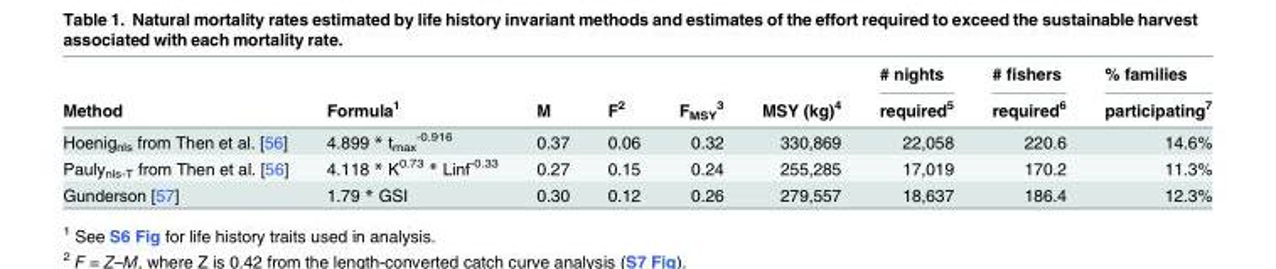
<table><thead><tr><td rowspan="2">Method</td><td rowspan="2">Formula<sup>1</sup></td><td rowspan="2">M</td><td rowspan="2">F<sup>2</sup></td><td rowspan="2">F<sub>MSY</sub> <sup>3</sup></td><td rowspan="2">MSY (kg)<sup>4</sup></td><td rowspan="2"># nights required<sup>5</sup></td><td rowspan="2"># fishers required<sup>6</sup></td><td rowspan="2">% families participating<sup>7</sup></td></tr><tr></tr></thead><tbody><tr><td>Hoenig<sub>nls</sub> from Then et al. [56]</td><td>4.899 * t<sub>max</sub> <sup>-0.916</sup></td><td>0.37</td><td>0.06</td><td>0.32</td><td>330,869</td><td>22,058</td><td>220.6</td><td>14.6%</td></tr><tr><td>Pauly<sub>nls-T</sub> from Then et al. [56]</td><td>4.118 * K<sup>0.73</sup> * Linf<sup>-0.33</sup></td><td>0.27</td><td>0.15</td><td>0.24</td><td>255,285</td><td>17,019</td><td>170.2</td><td>11.3%</td></tr><tr><td>Gunderson [57]</td><td>1.79 * GSI</td><td>0.30</td><td>0.12</td><td>0.26</td><td>279,557</td><td>18,637</td><td>186.4</td><td>12.3%</td></tr></tbody></table>